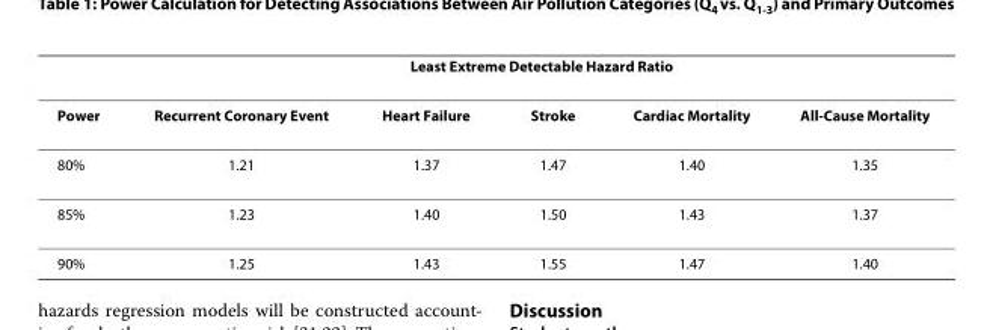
<table><thead><tr><td rowspan="2">Power</td><td colspan="5">Least Extreme Detectable Hazard Ratio</td></tr><tr><td>Recurrent Coronary Event</td><td>Heart Failure</td><td>Stroke</td><td>Cardiac Mortality</td><td>All-Cause Mortality</td></tr></thead><tbody><tr><td>80%</td><td>1.21</td><td>1.37</td><td>1.47</td><td>1.40</td><td>1.35</td></tr><tr><td>85%</td><td>1.23</td><td>1.40</td><td>1.50</td><td>1.43</td><td>1.37</td></tr><tr><td>90%</td><td>1.25</td><td>1.43</td><td>1.55</td><td>1.47</td><td>1.40</td></tr></tbody></table>